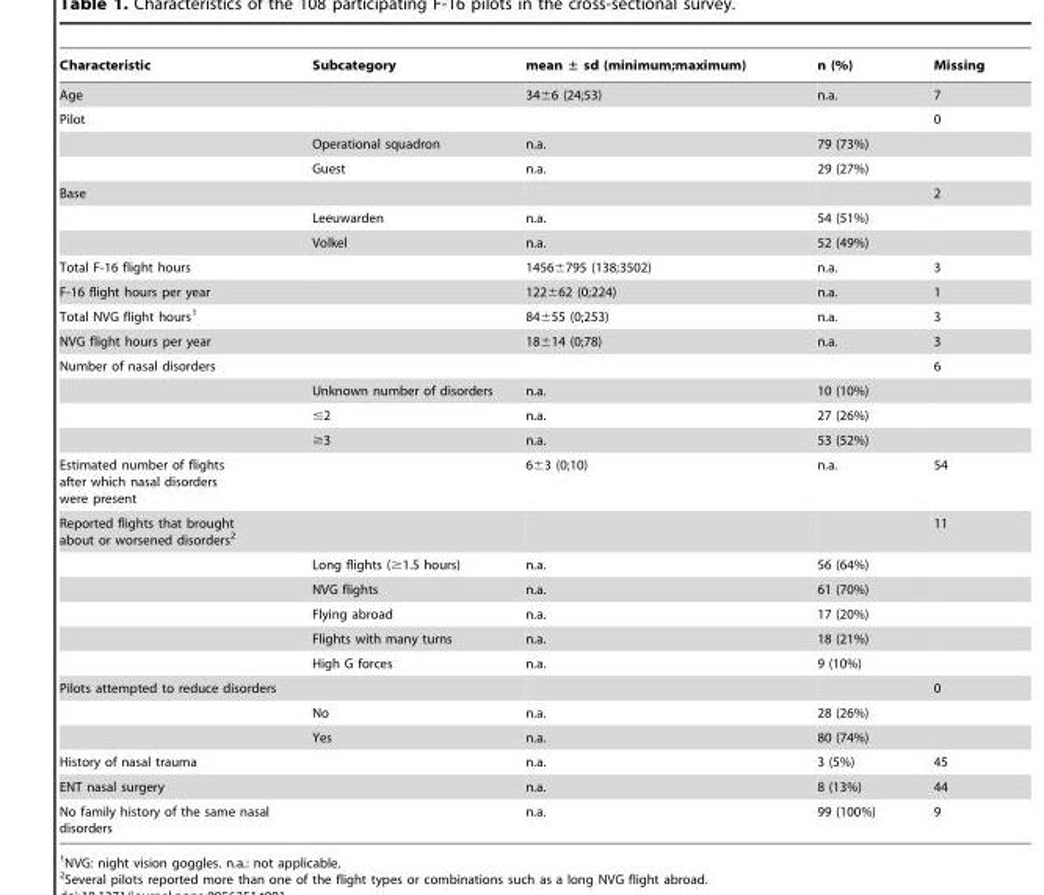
<table><thead><tr><td>Characteristic</td><td>Subcategory</td><td>mean ± sd (minimum;maximum)</td><td>n (%)</td><td>Missing</td></tr></thead><tbody><tr><td>Age</td><td></td><td>34±6 (24;53)</td><td>n.a.</td><td>7</td></tr><tr><td rowspan="3">Pilot</td><td></td><td></td><td></td><td>0</td></tr><tr><td>Operational squadron</td><td>n.a.</td><td>79 (73%)</td><td></td></tr><tr><td>Guest</td><td>n.a.</td><td>29 (27%)</td><td></td></tr><tr><td rowspan="3">Base</td><td></td><td></td><td></td><td>2</td></tr><tr><td>Leeuwarden</td><td>n.a.</td><td>54 (51%)</td><td></td></tr><tr><td>Volkel</td><td>n.a.</td><td>52 (49%)</td><td></td></tr><tr><td>Total F-16 flight hours</td><td></td><td>1456±795 (138;3502)</td><td>n.a.</td><td>3</td></tr><tr><td>F-16 flight hours per year</td><td></td><td>122±62 (0;224)</td><td>n.a.</td><td>1</td></tr><tr><td>Total NVG flight hours<sup>1</sup></td><td></td><td>84±55 (0;253)</td><td>n.a.</td><td>3</td></tr><tr><td>NVG flight hours per year</td><td></td><td>18±14 (0;78)</td><td>n.a.</td><td>3</td></tr><tr><td rowspan="4">Number of nasal disorders</td><td></td><td></td><td></td><td>6</td></tr><tr><td>Unknown number of disorders</td><td>n.a.</td><td>10 (10%)</td><td></td></tr><tr><td>≤2</td><td>n.a.</td><td>27 (26%)</td><td></td></tr><tr><td>≥3</td><td>n.a.</td><td>53 (52%)</td><td></td></tr><tr><td>Estimated number of flights after which nasal disorders were present</td><td></td><td>6±3 (0;10)</td><td>n.a.</td><td>54</td></tr><tr><td rowspan="6">Reported flights that brought about or worsened disorders<sup>2</sup></td><td></td><td></td><td></td><td>11</td></tr><tr><td>Long flights (≥1.5 hours)</td><td>n.a.</td><td>56 (64%)</td><td></td></tr><tr><td>NVG flights</td><td>n.a.</td><td>61 (70%)</td><td></td></tr><tr><td>Flying abroad</td><td>n.a.</td><td>17 (20%)</td><td></td></tr><tr><td>Flights with many turns</td><td>n.a.</td><td>18 (21%)</td><td></td></tr><tr><td>High G forces</td><td>n.a.</td><td>9 (10%)</td><td></td></tr><tr><td rowspan="3">Pilots attempted to reduce disorders</td><td></td><td></td><td></td><td>0</td></tr><tr><td>No</td><td>n.a.</td><td>28 (26%)</td><td></td></tr><tr><td>Yes</td><td>n.a.</td><td>80 (74%)</td><td></td></tr><tr><td>History of nasal trauma</td><td></td><td>n.a.</td><td>3 (5%)</td><td>45</td></tr><tr><td>ENT nasal surgery</td><td></td><td>n.a.</td><td>8 (13%)</td><td>44</td></tr><tr><td>No family history of the same nasal disorders</td><td></td><td>n.a.</td><td>99 (100%)</td><td>9</td></tr></tbody></table>